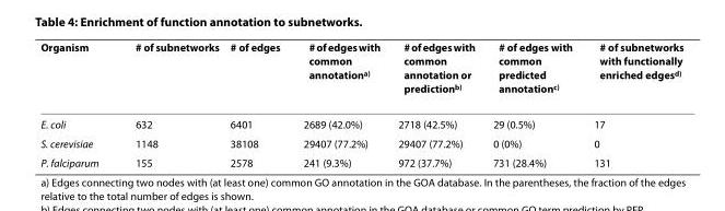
<table><thead><tr><td>Organism</td><td># of subnetworks</td><td># of edges</td><td># of edges with common annotation<sup>a)</sup></td><td># of edges with common annotation or prediction<sup>b)</sup></td><td># of edges with common predicted annotation<sup>c)</sup></td><td># of subnetworks with functionally enriched edges<sup>d)</sup></td></tr></thead><tbody><tr><td>E. coli</td><td>632</td><td>6401</td><td>2689 (42.0%)</td><td>2718 (42.5%)</td><td>29 (0.5%)</td><td>17</td></tr><tr><td>S. cerevisiae</td><td>1148</td><td>38108</td><td>29407 (77.2%)</td><td>29407 (77.2%)</td><td>0 (0%)</td><td>0</td></tr><tr><td>P. falciparum</td><td>155</td><td>2578</td><td>241 (9.3%)</td><td>972 (37.7%)</td><td>731 (28.4%)</td><td>131</td></tr></tbody></table>